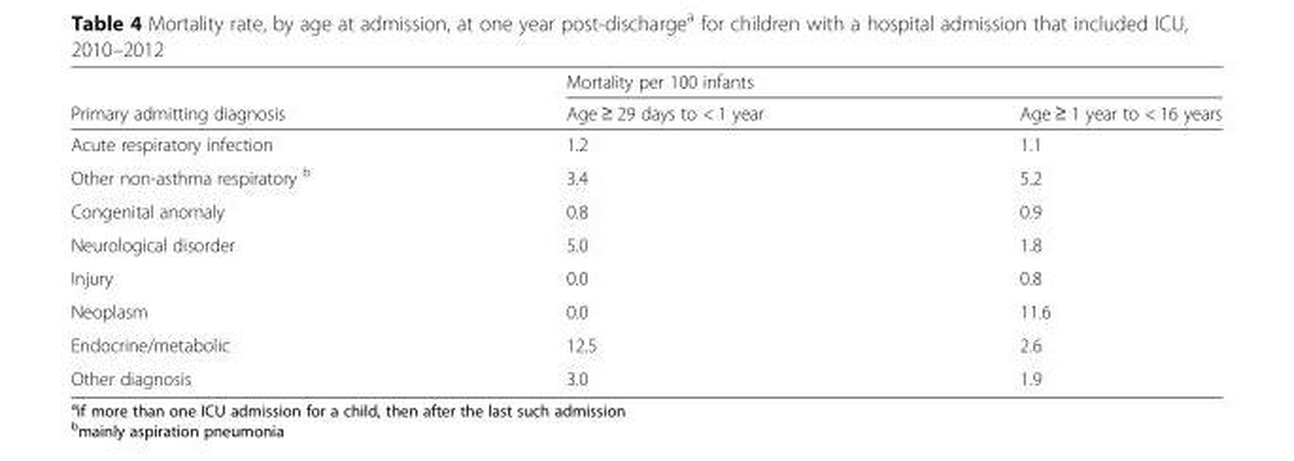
<table><thead><tr><td rowspan="2">Primary admitting diagnosis</td><td colspan="2">Mortality per 100 infants</td></tr><tr><td>Age ≥ 29 days to &lt; 1 year</td><td>Age ≥ 1 year to &lt; 16 years</td></tr></thead><tbody><tr><td>Acute respiratory infection</td><td>1.2</td><td>1.1</td></tr><tr><td>Other non-asthma respiratory <sup>b</sup></td><td>3.4</td><td>5.2</td></tr><tr><td>Congenital anomaly</td><td>0.8</td><td>0.9</td></tr><tr><td>Neurological disorder</td><td>5.0</td><td>1.8</td></tr><tr><td>Injury</td><td>0.0</td><td>0.8</td></tr><tr><td>Neoplasm</td><td>0.0</td><td>11.6</td></tr><tr><td>Endocrine/metabolic</td><td>12.5</td><td>2.6</td></tr><tr><td>Other diagnosis</td><td>3.0</td><td>1.9</td></tr></tbody></table>